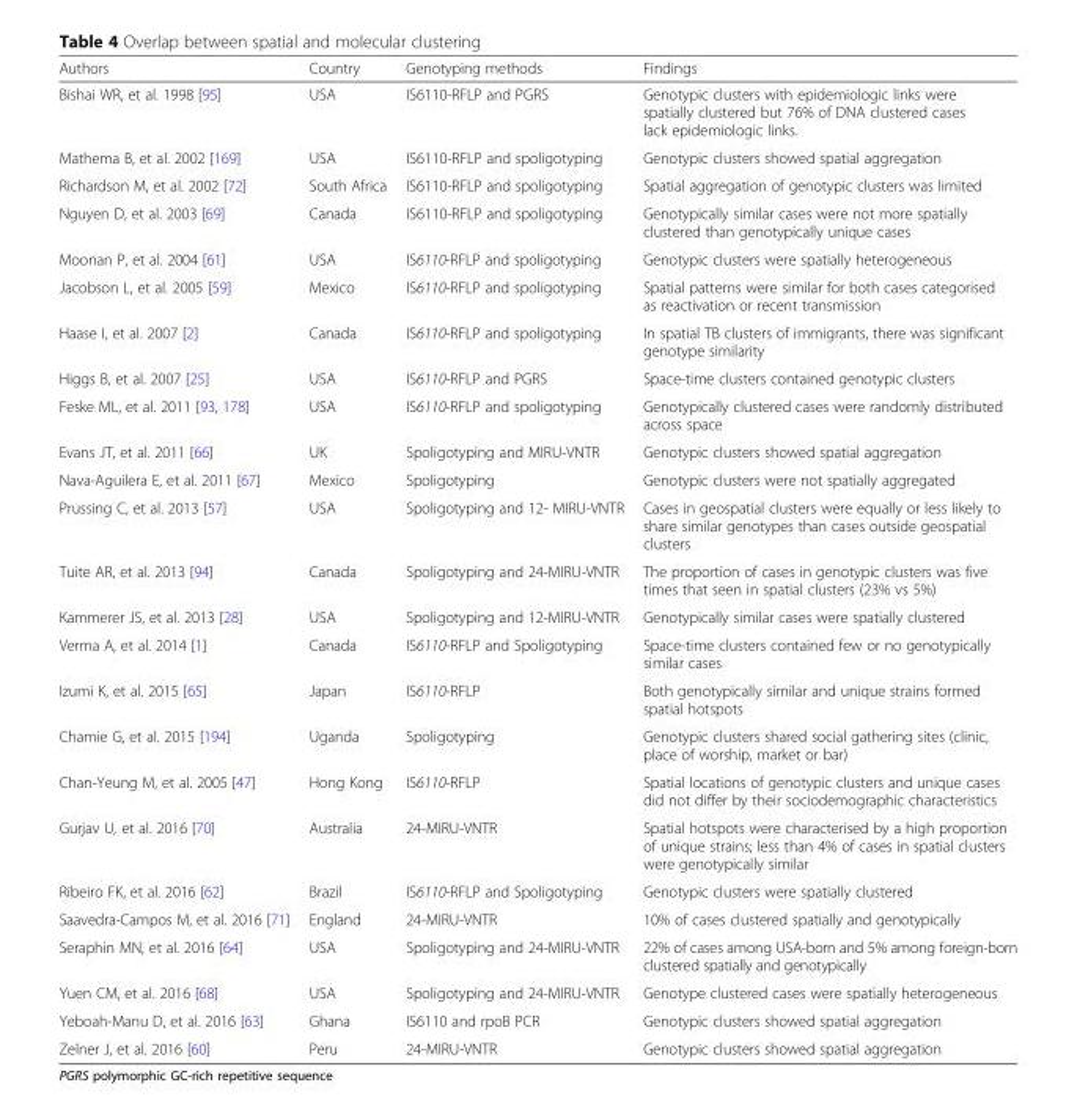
<table><thead><tr><td>Authors</td><td>Country</td><td>Genotyping methods</td><td>Findings</td></tr></thead><tbody><tr><td>Bishai WR, et al. 1998 [95]</td><td>USA</td><td>IS6110-RFLP and PGRS</td><td>Genotypic clusters with epidemiologic links were spatially clustered but 76% of DNA clustered cases lack epidemiologic links.</td></tr><tr><td>Mathema B, et al. 2002 [169]</td><td>USA</td><td>IS6110-RFLP and spoligotyping</td><td>Genotypic clusters showed spatial aggregation</td></tr><tr><td>Richardson M, et al. 2002 [72]</td><td>South Africa</td><td>IS6110-RFLP and spoligotyping</td><td>Spatial aggregation of genotypic clusters was limited</td></tr><tr><td>Nguyen D, et al. 2003 [69]</td><td>Canada</td><td>IS6110-RFLP and spoligotyping</td><td>Genotypically similar cases were not more spatially clustered than genotypically unique cases</td></tr><tr><td>Moonan P, et al. 2004 [61]</td><td>USA</td><td>IS6110-RFLP and spoligotyping</td><td>Genotypic clusters were spatially heterogeneous</td></tr><tr><td>Jacobson L, et al. 2005 [59]</td><td>Mexico</td><td>IS6110-RFLP and spoligotyping</td><td>Spatial patterns were similar for both cases categorised as reactivation or recent transmission</td></tr><tr><td>Haase I, et al. 2007 [2]</td><td>Canada</td><td>IS6110-RFLP and spoligotyping</td><td>In spatial TB clusters of immigrants, there was significant genotype similarity</td></tr><tr><td>Higgs B, et al. 2007 [25]</td><td>USA</td><td>IS6110-RFLP and PGRS</td><td>Space-time clusters contained genotypic clusters</td></tr><tr><td>Feske ML, et al. 2011 [93, 178]</td><td>USA</td><td>IS6110-RFLP and spoligotyping</td><td>Genotypically clustered cases were randomly distributed across space</td></tr><tr><td>Evans JT, et al. 2011 [66]</td><td>UK</td><td>Spoligotyping and MIRU-VNTR</td><td>Genotypic clusters showed spatial aggregation</td></tr><tr><td>Nava-Aguilera E, et al. 2011 [67]</td><td>Mexico</td><td>Spoligotyping</td><td>Genotypic clusters were not spatially aggregated</td></tr><tr><td>Prussing C, et al. 2013 [57]</td><td>USA</td><td>Spoligotyping and 12- MIRU-VNTR</td><td>Cases in geospatial clusters were equally or less likely to share similar genotypes than cases outside geospatial clusters</td></tr><tr><td>Tuite AR, et al. 2013 [94]</td><td>Canada</td><td>Spoligotyping and 24-MIRU-VNTR</td><td>The proportion of cases in genotypic clusters was five times that seen in spatial clusters (23% vs 5%)</td></tr><tr><td>Kammerer JS, et al. 2013 [28]</td><td>USA</td><td>Spoligotyping and 12-MIRU-VNTR</td><td>Genotypically similar cases were spatially clustered</td></tr><tr><td>Verma A, et al. 2014 [1]</td><td>Canada</td><td>IS6110-RFLP and Spoligotyping</td><td>Space-time clusters contained few or no genotypically similar cases</td></tr><tr><td>Izumi K, et al. 2015 [65]</td><td>Japan</td><td>IS6110-RFLP</td><td>Both genotypically similar and unique strains formed spatial hotspots</td></tr><tr><td>Chamie G, et al. 2015 [194]</td><td>Uganda</td><td>Spoligotyping</td><td>Genotypic clusters shared social gathering sites (clinic, place of worship, market or bar)</td></tr><tr><td>Chan-Yeung M, et al. 2005 [47]</td><td>Hong Kong</td><td>IS6110-RFLP</td><td>Spatial locations of genotypic clusters and unique cases did not differ by their sociodemographic characteristics</td></tr><tr><td>Gurjav U, et al. 2016 [70]</td><td>Australia</td><td>24-MIRU-VNTR</td><td>Spatial hotspots were characterised by a high proportion of unique strains; less than 4% of cases in spatial clusters were genotypically similar</td></tr><tr><td>Ribeiro FK, et al. 2016 [62]</td><td>Brazil</td><td>IS6110-RFLP and Spoligotyping</td><td>Genotypic clusters were spatially clustered</td></tr><tr><td>Saavedra-Campos M, et al. 2016 [71]</td><td>England</td><td>24-MIRU-VNTR</td><td>10% of cases clustered spatially and genotypically</td></tr><tr><td>Seraphin MN, et al. 2016 [64]</td><td>USA</td><td>Spoligotyping and 24-MIRU-VNTR</td><td>22% of cases among USA-born and 5% among foreign-born clustered spatially and genotypically</td></tr><tr><td>Yuen CM, et al. 2016 [68]</td><td>USA</td><td>Spoligotyping and 24-MIRU-VNTR</td><td>Genotype clustered cases were spatially heterogeneous</td></tr><tr><td>Yeboah-Manu D, et al. 2016 [63]</td><td>Ghana</td><td>IS6110 and rpoB PCR</td><td>Genotypic clusters showed spatial aggregation</td></tr><tr><td>Zelner J, et al. 2016 [60]</td><td>Peru</td><td>24-MIRU-VNTR</td><td>Genotypic clusters showed spatial aggregation</td></tr></tbody></table>